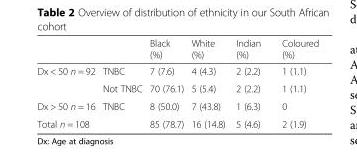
<table><thead><tr><td></td><td></td><td>Black (%)</td><td>White (%)</td><td>Indian (%)</td><td>Coloured (%)</td></tr></thead><tbody><tr><td rowspan="2">Dx &lt; 50 n = 92</td><td>TNBC</td><td>7 (7.6)</td><td>4 (4.3)</td><td>2 (2.2)</td><td>1 (1.1)</td></tr><tr><td>Not TNBC</td><td>70 (76.1)</td><td>5 (5.4)</td><td>2 (2.2)</td><td>1 (1.1)</td></tr><tr><td>Dx &gt; 50 n = 16</td><td>TNBC</td><td>8 (50.0)</td><td>7 (43.8)</td><td>1 (6.3)</td><td>0</td></tr><tr><td>Total n = 108</td><td></td><td>85 (78.7)</td><td>16 (14.8)</td><td>5 (4.6)</td><td>2 (1.9)</td></tr></tbody></table>